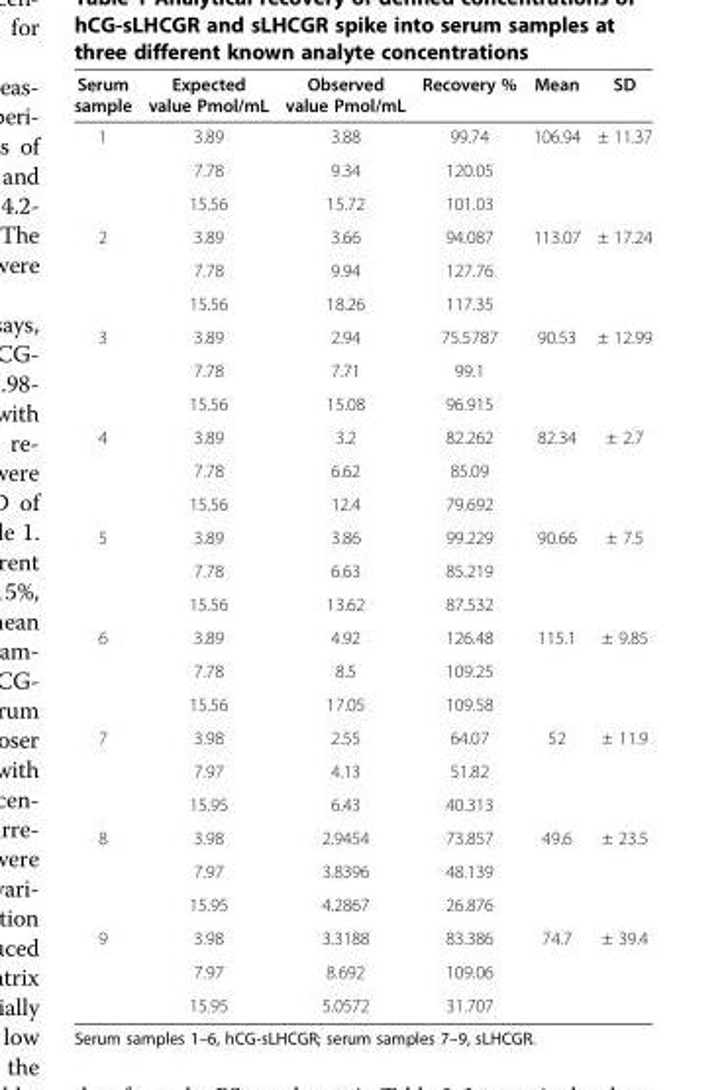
<table><thead><tr><td>Serum sample</td><td>Expected value Pmol/mL</td><td>Observed value Pmol/mL</td><td>Recovery %</td><td>Mean</td><td>SD</td></tr></thead><tbody><tr><td rowspan="3">1</td><td>3.89</td><td>3.88</td><td>99.74</td><td>106.94</td><td>± 11.37</td></tr><tr><td>7.78</td><td>9.34</td><td>120.05</td><td></td><td></td></tr><tr><td>15.56</td><td>15.72</td><td>101.03</td><td></td><td></td></tr><tr><td rowspan="3">2</td><td>3.89</td><td>3.66</td><td>94.087</td><td>113.07</td><td>± 17.24</td></tr><tr><td>7.78</td><td>9.94</td><td>127.76</td><td></td><td></td></tr><tr><td>15.56</td><td>18.26</td><td>117.35</td><td></td><td></td></tr><tr><td rowspan="3">3</td><td>3.89</td><td>2.94</td><td>75.5787</td><td>90.53</td><td>± 12.99</td></tr><tr><td>7.78</td><td>7.71</td><td>99.1</td><td></td><td></td></tr><tr><td>15.56</td><td>15.08</td><td>96.915</td><td></td><td></td></tr><tr><td rowspan="3">4</td><td>3.89</td><td>3.2</td><td>82.262</td><td>82.34</td><td>± 2.7</td></tr><tr><td>7.78</td><td>6.62</td><td>85.09</td><td></td><td></td></tr><tr><td>15.56</td><td>12.4</td><td>79.692</td><td></td><td></td></tr><tr><td rowspan="3">5</td><td>3.89</td><td>3.86</td><td>99.229</td><td>90.66</td><td>± 7.5</td></tr><tr><td>7.78</td><td>6.63</td><td>85.219</td><td></td><td></td></tr><tr><td>15.56</td><td>13.62</td><td>87.532</td><td></td><td></td></tr><tr><td rowspan="3">6</td><td>3.89</td><td>4.92</td><td>126.48</td><td>115.1</td><td>± 9.85</td></tr><tr><td>7.78</td><td>8.5</td><td>109.25</td><td></td><td></td></tr><tr><td>15.56</td><td>17.05</td><td>109.58</td><td></td><td></td></tr><tr><td rowspan="3">7</td><td>3.98</td><td>2.55</td><td>64.07</td><td>52</td><td>± 11.9</td></tr><tr><td>7.97</td><td>4.13</td><td>51.82</td><td></td><td></td></tr><tr><td>15.95</td><td>6.43</td><td>40.313</td><td></td><td></td></tr><tr><td rowspan="3">8</td><td>3.98</td><td>2.9454</td><td>73.857</td><td>49.6</td><td>± 23.5</td></tr><tr><td>7.97</td><td>3.8396</td><td>48.139</td><td></td><td></td></tr><tr><td>15.95</td><td>4.2867</td><td>26.876</td><td></td><td></td></tr><tr><td rowspan="3">9</td><td>3.98</td><td>3.3188</td><td>83.386</td><td>74.7</td><td>± 39.4</td></tr><tr><td>7.97</td><td>8.692</td><td>109.06</td><td></td><td></td></tr><tr><td>15.95</td><td>5.0572</td><td>31.707</td><td></td><td></td></tr></tbody></table>